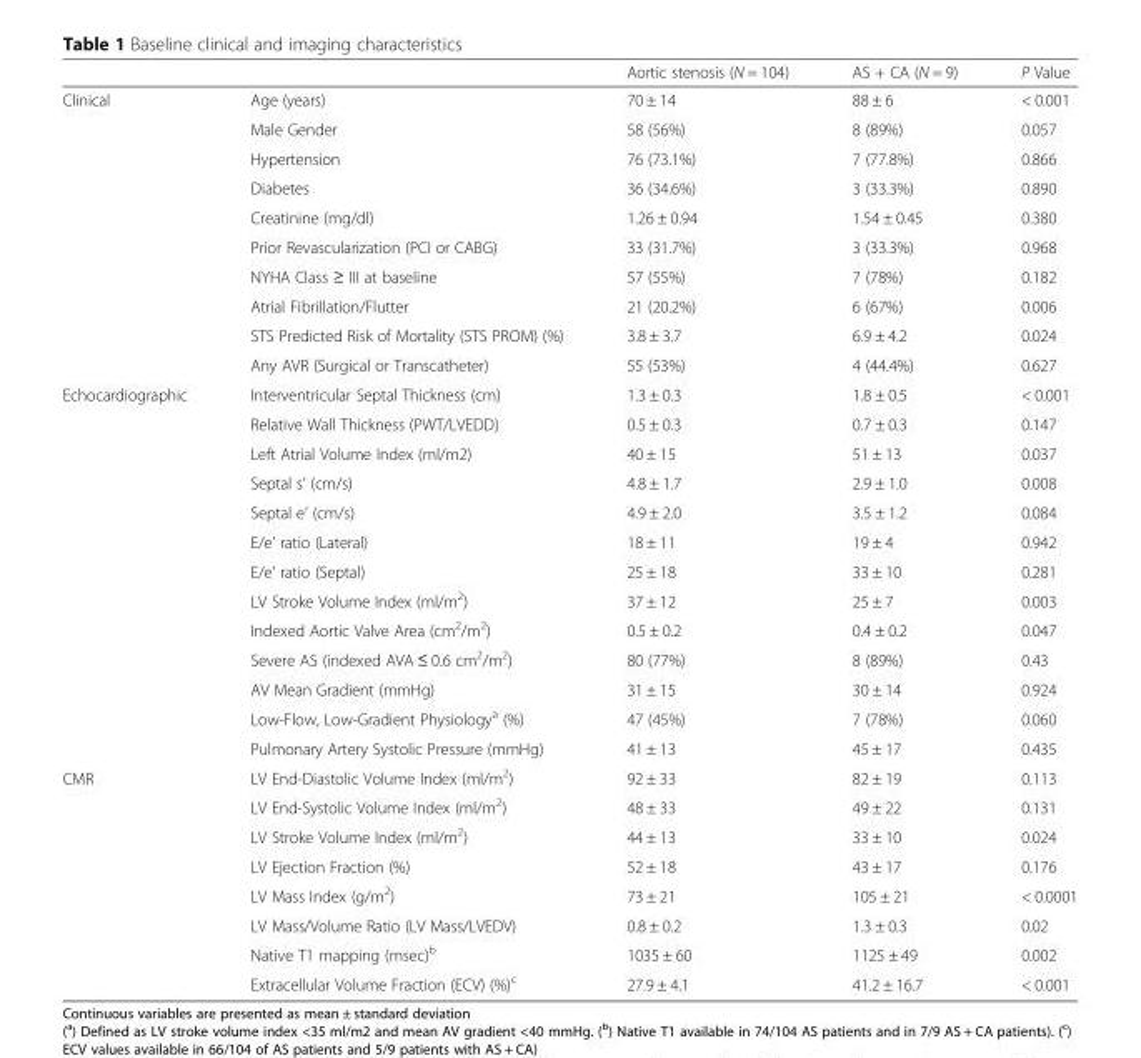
<table><thead><tr><td></td><td></td><td>Aortic stenosis (N = 104)</td><td>AS + CA (N = 9)</td><td>P Value</td></tr></thead><tbody><tr><td rowspan="10">Clinical</td><td>Age (years)</td><td>70 ± 14</td><td>88 ± 6</td><td>&lt; 0.001</td></tr><tr><td>Male Gender</td><td>58 (56%)</td><td>8 (89%)</td><td>0.057</td></tr><tr><td>Hypertension</td><td>76 (73.1%)</td><td>7 (77.8%)</td><td>0.866</td></tr><tr><td>Diabetes</td><td>36 (34.6%)</td><td>3 (33.3%)</td><td>0.890</td></tr><tr><td>Creatinine (mg/dl)</td><td>1.26 ± 0.94</td><td>1.54 ± 0.45</td><td>0.380</td></tr><tr><td>Prior Revascularization (PCI or CABG)</td><td>33 (31.7%)</td><td>3 (33.3%)</td><td>0.968</td></tr><tr><td>NYHA Class ≥ III at baseline</td><td>57 (55%)</td><td>7 (78%)</td><td>0.182</td></tr><tr><td>Atrial Fibrillation/Flutter</td><td>21 (20.2%)</td><td>6 (67%)</td><td>0.006</td></tr><tr><td>STS Predicted Risk of Mortality (STS PROM) (%)</td><td>3.8 ± 3.7</td><td>6.9 ± 4.2</td><td>0.024</td></tr><tr><td>Any AVR (Surgical or Transcatheter)</td><td>55 (53%)</td><td>4 (44.4%)</td><td>0.627</td></tr><tr><td rowspan="13">Echocardiographic</td><td>Interventricular Septal Thickness (cm)</td><td>1.3 ± 0.3</td><td>1.8 ± 0.5</td><td>&lt; 0.001</td></tr><tr><td>Relative Wall Thickness (PWT/LVEDD)</td><td>0.5 ± 0.3</td><td>0.7 ± 0.3</td><td>0.147</td></tr><tr><td>Left Atrial Volume Index (ml/m2)</td><td>40 ± 15</td><td>51 ± 13</td><td>0.037</td></tr><tr><td>Septal s’ (cm/s)</td><td>4.8 ± 1.7</td><td>2.9 ± 1.0</td><td>0.008</td></tr><tr><td>Septal e’ (cm/s)</td><td>4.9 ± 2.0</td><td>3.5 ± 1.2</td><td>0.084</td></tr><tr><td>E/e’ ratio (Lateral)</td><td>18 ± 11</td><td>19 ± 4</td><td>0.942</td></tr><tr><td>E/e’ ratio (Septal)</td><td>25 ± 18</td><td>33 ± 10</td><td>0.281</td></tr><tr><td>LV Stroke Volume Index (ml/m<sup>2</sup>)</td><td>37 ± 12</td><td>25 ± 7</td><td>0.003</td></tr><tr><td>Indexed Aortic Valve Area (cm<sup>2</sup>/m<sup>2</sup>)</td><td>0.5 ± 0.2</td><td>0.4 ± 0.2</td><td>0.047</td></tr><tr><td>Severe AS (indexed AVA ≤ 0.6 cm<sup>2</sup>/m<sup>2</sup>)</td><td>80 (77%)</td><td>8 (89%)</td><td>0.43</td></tr><tr><td>AV Mean Gradient (mmHg)</td><td>31 ± 15</td><td>30 ± 14</td><td>0.924</td></tr><tr><td>Low-Flow, Low-Gradient Physiology<sup>a</sup> (%)</td><td>47 (45%)</td><td>7 (78%)</td><td>0.060</td></tr><tr><td>Pulmonary Artery Systolic Pressure (mmHg)</td><td>41 ± 13</td><td>45 ± 17</td><td>0.435</td></tr><tr><td rowspan="8">CMR</td><td>LV End-Diastolic Volume Index (ml/m<sup>2</sup>)</td><td>92 ± 33</td><td>82 ± 19</td><td>0.113</td></tr><tr><td>LV End-Systolic Volume Index (ml/m<sup>2</sup>)</td><td>48 ± 33</td><td>49 ± 22</td><td>0.131</td></tr><tr><td>LV Stroke Volume Index (ml/m<sup>2</sup>)</td><td>44 ± 13</td><td>33 ± 10</td><td>0.024</td></tr><tr><td>LV Ejection Fraction (%)</td><td>52 ± 18</td><td>43 ± 17</td><td>0.176</td></tr><tr><td>LV Mass Index (g/m<sup>2</sup>)</td><td>73 ± 21</td><td>105 ± 21</td><td>&lt; 0.0001</td></tr><tr><td>LV Mass/Volume Ratio (LV Mass/LVEDV)</td><td>0.8 ± 0.2</td><td>1.3 ± 0.3</td><td>0.02</td></tr><tr><td>Native T1 mapping (msec)<sup>b</sup></td><td>1035 ± 60</td><td>1125 ± 49</td><td>0.002</td></tr><tr><td>Extracellular Volume Fraction (ECV) (%)<sup>c</sup></td><td>27.9 ± 4.1</td><td>41.2 ± 16.7</td><td>&lt; 0.001</td></tr></tbody></table>